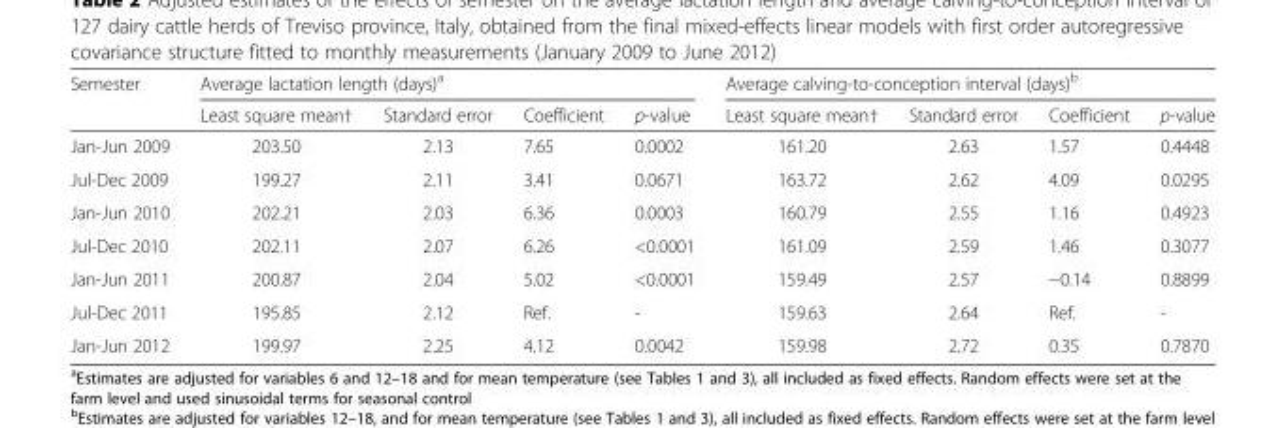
<table><thead><tr><td rowspan="2">Semester</td><td colspan="4">Average lactation length (days)<sup>a</sup></td><td colspan="4">Average calving-to-conception interval (days)<sup>b</sup></td></tr><tr><td>Least square mean†</td><td>Standard error</td><td>Coefficient</td><td>p-value</td><td>Least square mean†</td><td>Standard error</td><td>Coefficient</td><td>p-value</td></tr></thead><tbody><tr><td>Jan-Jun 2009</td><td>203.50</td><td>2.13</td><td>7.65</td><td>0.0002</td><td>161.20</td><td>2.63</td><td>1.57</td><td>0.4448</td></tr><tr><td>Jul-Dec 2009</td><td>199.27</td><td>2.11</td><td>3.41</td><td>0.0671</td><td>163.72</td><td>2.62</td><td>4.09</td><td>0.0295</td></tr><tr><td>Jan-Jun 2010</td><td>202.21</td><td>2.03</td><td>6.36</td><td>0.0003</td><td>160.79</td><td>2.55</td><td>1.16</td><td>0.4923</td></tr><tr><td>Jul-Dec 2010</td><td>202.11</td><td>2.07</td><td>6.26</td><td>&lt;0.0001</td><td>161.09</td><td>2.59</td><td>1.46</td><td>0.3077</td></tr><tr><td>Jan-Jun 2011</td><td>200.87</td><td>2.04</td><td>5.02</td><td>&lt;0.0001</td><td>159.49</td><td>2.57</td><td>−0.14</td><td>0.8899</td></tr><tr><td>Jul-Dec 2011</td><td>195.85</td><td>2.12</td><td>Ref.</td><td>-</td><td>159.63</td><td>2.64</td><td>Ref.</td><td>-</td></tr><tr><td>Jan-Jun 2012</td><td>199.97</td><td>2.25</td><td>4.12</td><td>0.0042</td><td>159.98</td><td>2.72</td><td>0.35</td><td>0.7870</td></tr></tbody></table>